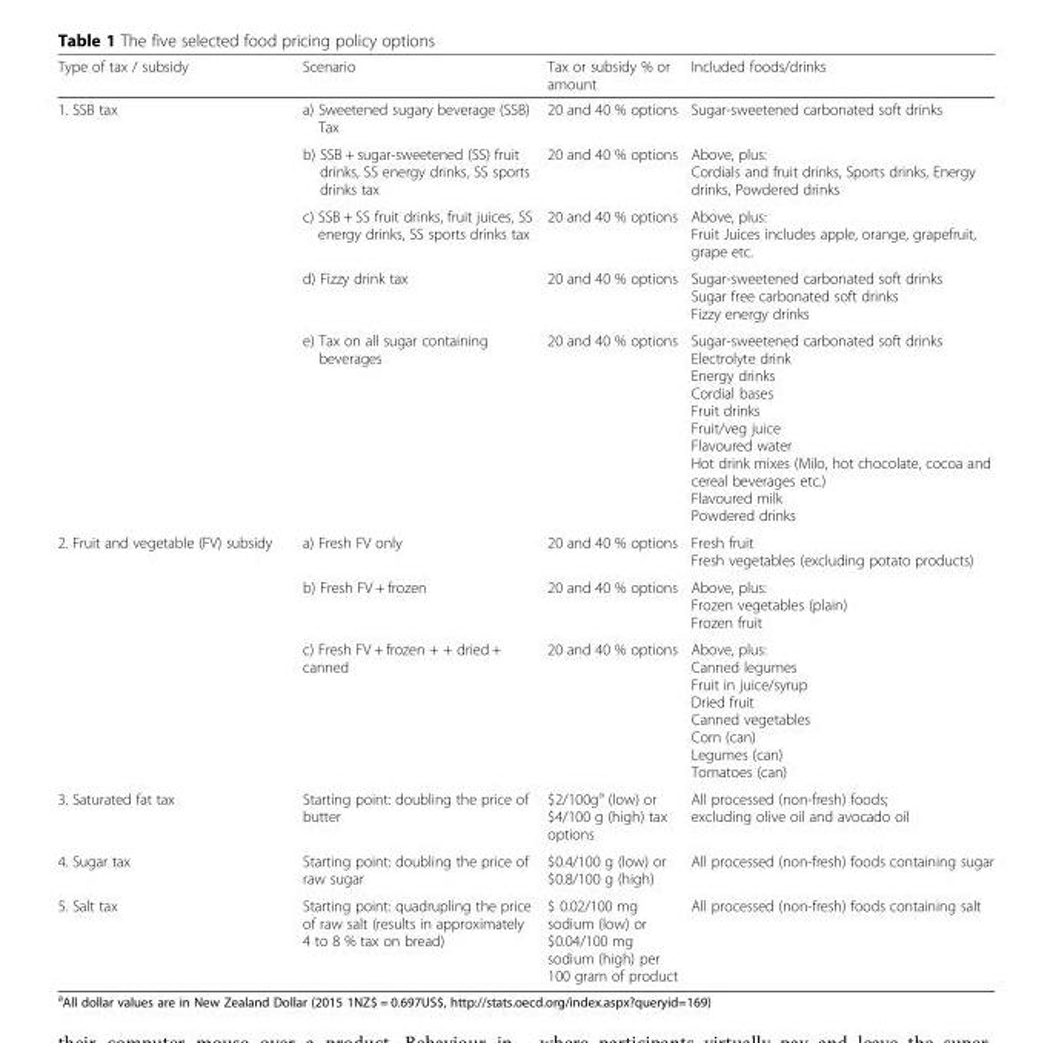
<table><thead><tr><td>Type of tax / subsidy</td><td>Scenario</td><td>Tax or subsidy % or amount</td><td>Included foods/drinks</td></tr></thead><tbody><tr><td rowspan="5">1. SSB tax</td><td>a) Sweetened sugary beverage (SSB) Tax</td><td>20 and 40 % options</td><td>Sugar-sweetened carbonated soft drinks</td></tr><tr><td>b) SSB + sugar-sweetened (SS) fruit drinks, SS energy drinks, SS sports drinks tax</td><td>20 and 40 % options</td><td>Above, plus: Cordials and fruit drinks, Sports drinks, Energy drinks, Powdered drinks</td></tr><tr><td>c) SSB + SS fruit drinks, fruit juices, SS energy drinks, SS sports drinks tax</td><td>20 and 40 % options</td><td>Above, plus: Fruit Juices includes apple, orange, grapefruit, grape etc.</td></tr><tr><td>d) Fizzy drink tax</td><td>20 and 40 % options</td><td>Sugar-sweetened carbonated soft drinks Sugar free carbonated soft drinks Fizzy energy drinks</td></tr><tr><td>e) Tax on all sugar containing beverages</td><td>20 and 40 % options</td><td>Sugar-sweetened carbonated soft drinks Electrolyte drink Energy drinks Cordial bases Fruit drinks Fruit/veg juice Flavoured water Hot drink mixes (Milo, hot chocolate, cocoa and cereal beverages etc.) Flavoured milk Powdered drinks</td></tr><tr><td rowspan="3">2. Fruit and vegetable (FV) subsidy</td><td>a) Fresh FV only</td><td>20 and 40 % options</td><td>Fresh fruit Fresh vegetables (excluding potato products)</td></tr><tr><td>b) Fresh FV + frozen</td><td>20 and 40 % options</td><td>Above, plus: Frozen vegetables (plain) Frozen fruit</td></tr><tr><td>c) Fresh FV + frozen + + dried + canned</td><td>20 and 40 % options</td><td>Above, plus: Canned legumes Fruit in juice/syrup Dried fruit Canned vegetables Corn (can) Legumes (can) Tomatoes (can)</td></tr><tr><td>3. Saturated fat tax</td><td>Starting point: doubling the price of butter</td><td>$2/100g<sup>a</sup> (low) or $4/100 g (high) tax options</td><td>All processed (non-fresh) foods; excluding olive oil and avocado oil</td></tr><tr><td>4. Sugar tax</td><td>Starting point: doubling the price of raw sugar</td><td>$0.4/100 g (low) or $0.8/100 g (high)</td><td>All processed (non-fresh) foods containing sugar</td></tr><tr><td>5. Salt tax</td><td>Starting point: quadrupling the price of raw salt (results in approximately 4 to 8 % tax on bread)</td><td>$ 0.02/100 mg sodium (low) or $0.04/100 mg sodium (high) per 100 gram of product</td><td>All processed (non-fresh) foods containing salt</td></tr></tbody></table>